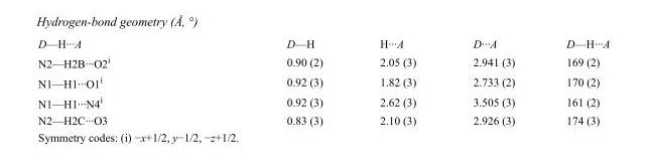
<table><tbody><tr><td>D—H···A</td><td>D—H</td><td>H···A</td><td>D···A</td><td>D—H···A</td></tr><tr><td>N2—H2B···O2<sup>i</sup></td><td>0.90 (2)</td><td>2.05 (3)</td><td>2.941 (3)</td><td>169 (2)</td></tr><tr><td>N1—H1···O1<sup>i</sup></td><td>0.92 (3)</td><td>1.82 (3)</td><td>2.733 (2)</td><td>170 (2)</td></tr><tr><td>N1—H1···N4<sup>i</sup></td><td>0.92 (3)</td><td>2.62 (3)</td><td>3.505 (3)</td><td>161 (2)</td></tr><tr><td>N2—H2C···O3</td><td>0.83 (3)</td><td>2.10 (3)</td><td>2.926 (3)</td><td>174 (3)</td></tr></tbody></table>